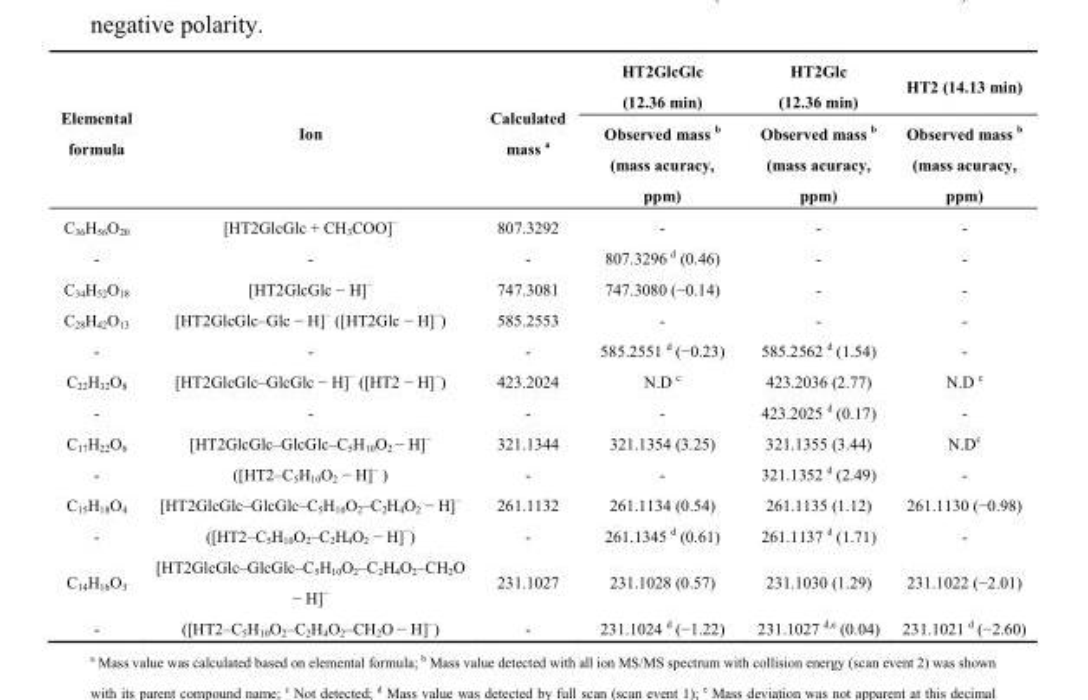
<table><thead><tr><td rowspan="2">Elemental formula</td><td rowspan="2">Ion</td><td rowspan="2">Calculated mass <sup>a</sup></td><td rowspan="2">HT2GlcGlc (12.36 min) Observed mass <sup>b</sup> (mass acuracy, ppm)</td><td rowspan="2">HT2Glc (12.36 min) Observed mass <sup>b</sup> (mass acuracy, ppm)</td><td rowspan="2">HT2 (14.13 min) Observed mass <sup>b</sup> (mass acuracy, ppm)</td></tr><tr></tr></thead><tbody><tr><td>C<sub>36</sub>H<sub>56</sub>O<sub>20</sub></td><td>[HT2GlcGlc + CH<sub>3</sub>COO]<sup>−</sup></td><td>807.3292</td><td>-</td><td>-</td><td>-</td></tr><tr><td>-</td><td>-</td><td>-</td><td>807.3296 <sup>d</sup> (0.46)</td><td>-</td><td>-</td></tr><tr><td>C<sub>34</sub>H<sub>52</sub>O<sub>18</sub></td><td>[HT2GlcGlc − H]<sup>−</sup></td><td>747.3081</td><td>747.3080 (−0.14)</td><td>-</td><td>-</td></tr><tr><td>C<sub>28</sub>H<sub>42</sub>O<sub>13</sub></td><td>[HT2GlcGlc–Glc − H]<sup>−</sup> ([HT2Glc − H]<sup>−</sup>)</td><td>585.2553</td><td>-</td><td>-</td><td>-</td></tr><tr><td>-</td><td>-</td><td>-</td><td>585.2551 <sup>d</sup> (−0.23)</td><td>585.2562 <sup>d</sup> (1.54)</td><td>-</td></tr><tr><td>C<sub>22</sub>H<sub>32</sub>O<sub>8</sub></td><td>[HT2GlcGlc–GlcGlc − H]<sup>−</sup> ([HT2 − H]<sup>−</sup>)</td><td>423.2024</td><td>N.D <sup>c</sup></td><td>423.2036 (2.77)</td><td>N.D <sup>c</sup></td></tr><tr><td>-</td><td>-</td><td>-</td><td>-</td><td>423.2025 <sup>d</sup> (0.17)</td><td>-</td></tr><tr><td>C<sub>17</sub>H<sub>22</sub>O<sub>6</sub></td><td>[HT2GlcGlc–GlcGlc–C<sub>5</sub>H<sub>10</sub>O<sub>2</sub> − H]<sup>−</sup></td><td>321.1344</td><td>321.1354 (3.25)</td><td>321.1355 (3.44)</td><td>N.D<sup>c</sup></td></tr><tr><td>-</td><td>([HT2–C<sub>5</sub>H<sub>10</sub>O<sub>2</sub> − H]<sup>−</sup> )</td><td>-</td><td>-</td><td>321.1352 <sup>d</sup> (2.49)</td><td>-</td></tr><tr><td>C<sub>15</sub>H<sub>18</sub>O<sub>4</sub></td><td>[HT2GlcGlc–GlcGlc–C<sub>5</sub>H<sub>10</sub>O<sub>2</sub>–C<sub>2</sub>H<sub>4</sub>O<sub>2</sub> − H]<sup>−</sup></td><td>261.1132</td><td>261.1134 (0.54)</td><td>261.1135 (1.12)</td><td>261.1130 (−0.98)</td></tr><tr><td>-</td><td>([HT2–C<sub>5</sub>H<sub>10</sub>O<sub>2</sub>–C<sub>2</sub>H<sub>4</sub>O<sub>2</sub> − H]<sup>−</sup>)</td><td>-</td><td>261.1345 <sup>d</sup> (0.61)</td><td>261.1137 <sup>d</sup> (1.71)</td><td>-</td></tr><tr><td>C<sub>14</sub>H<sub>16</sub>O<sub>3</sub></td><td>[HT2GlcGlc–GlcGlc–C<sub>5</sub>H<sub>10</sub>O<sub>2</sub>–C<sub>2</sub>H<sub>4</sub>O<sub>2</sub>–CH<sub>2</sub>O − H]<sup>−</sup></td><td>231.1027</td><td>231.1028 (0.57)</td><td>231.1030 (1.29)</td><td>231.1022 (−2.01)</td></tr><tr><td>-</td><td>([HT2–C<sub>5</sub>H<sub>10</sub>O<sub>2</sub>–C<sub>2</sub>H<sub>4</sub>O<sub>2</sub>–CH<sub>2</sub>O − H]<sup>−</sup>)</td><td>-</td><td>231.1024 <sup>d</sup> (−1.22)</td><td>231.1027 <sup>d,e</sup> (0.04)</td><td>231.1021 <sup>d</sup> (−2.60)</td></tr></tbody></table>